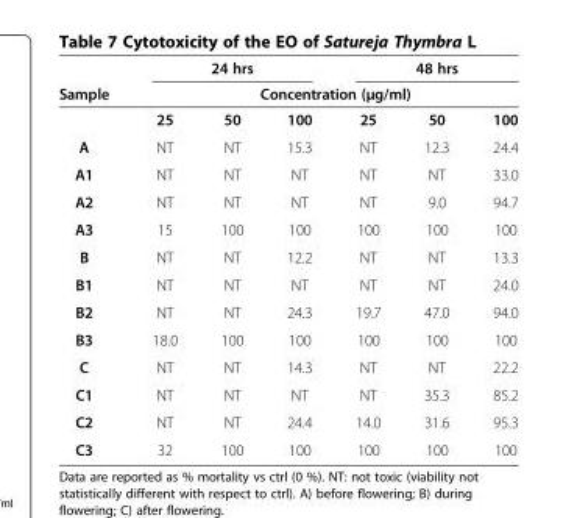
<table><thead><tr><td rowspan="3">Sample</td><td colspan="3">24 hrs</td><td colspan="3">48 hrs</td></tr><tr><td colspan="6">Concentration (μg/ml)</td></tr><tr><td>25</td><td>50</td><td>100</td><td>25</td><td>50</td><td>100</td></tr></thead><tbody><tr><td>A</td><td>NT</td><td>NT</td><td>15.3</td><td>NT</td><td>12.3</td><td>24.4</td></tr><tr><td>A1</td><td>NT</td><td>NT</td><td>NT</td><td>NT</td><td>NT</td><td>33.0</td></tr><tr><td>A2</td><td>NT</td><td>NT</td><td>NT</td><td>NT</td><td>9.0</td><td>94.7</td></tr><tr><td>A3</td><td>15</td><td>100</td><td>100</td><td>100</td><td>100</td><td>100</td></tr><tr><td>B</td><td>NT</td><td>NT</td><td>12.2</td><td>NT</td><td>NT</td><td>13.3</td></tr><tr><td>B1</td><td>NT</td><td>NT</td><td>NT</td><td>NT</td><td>NT</td><td>24.0</td></tr><tr><td>B2</td><td>NT</td><td>NT</td><td>24.3</td><td>19.7</td><td>47.0</td><td>94.0</td></tr><tr><td>B3</td><td>18.0</td><td>100</td><td>100</td><td>100</td><td>100</td><td>100</td></tr><tr><td>C</td><td>NT</td><td>NT</td><td>14.3</td><td>NT</td><td>NT</td><td>22.2</td></tr><tr><td>C1</td><td>NT</td><td>NT</td><td>NT</td><td>NT</td><td>35.3</td><td>85.2</td></tr><tr><td>C2</td><td>NT</td><td>NT</td><td>24.4</td><td>14.0</td><td>31.6</td><td>95.3</td></tr><tr><td>C3</td><td>32</td><td>100</td><td>100</td><td>100</td><td>100</td><td>100</td></tr></tbody></table>